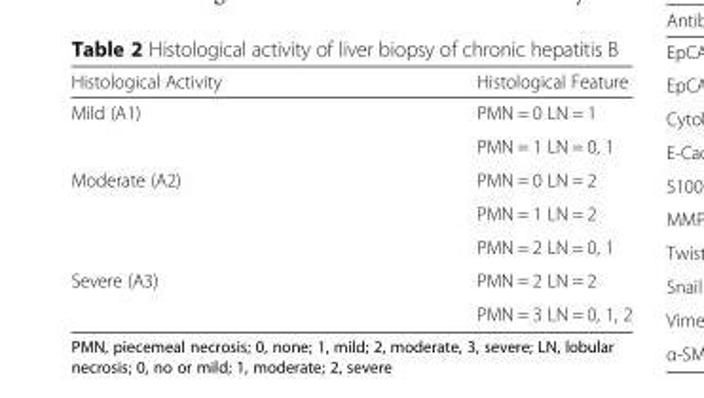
<table><thead><tr><td>Histological Activity</td><td>Histological Feature</td></tr></thead><tbody><tr><td rowspan="2">Mild (A1)</td><td>PMN = 0 LN = 1</td></tr><tr><td>PMN = 1 LN = 0, 1</td></tr><tr><td rowspan="3">Moderate (A2)</td><td>PMN = 0 LN = 2</td></tr><tr><td>PMN = 1 LN = 2</td></tr><tr><td>PMN = 2 LN = 0, 1</td></tr><tr><td rowspan="2">Severe (A3)</td><td>PMN = 2 LN = 2</td></tr><tr><td>PMN = 3 LN = 0, 1, 2</td></tr></tbody></table>